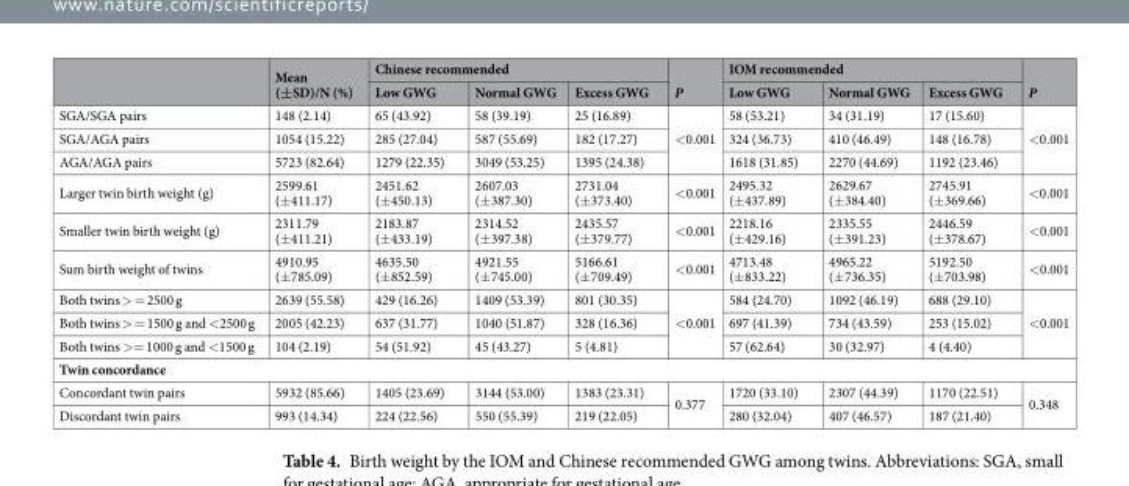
<table><thead><tr><td rowspan="2"></td><td rowspan="2">Mean (±SD)/N (%)</td><td colspan="3">Chinese recommended</td><td rowspan="2">P</td><td colspan="3">IOM recommended</td><td rowspan="2">P</td></tr><tr><td>Low GWG</td><td>Normal GWG</td><td>Excess GWG</td><td>Low GWG</td><td>Normal GWG</td><td>Excess GWG</td></tr></thead><tbody><tr><td>SGA/SGA pairs</td><td>148 (2.14)</td><td>65 (43.92)</td><td>58 (39.19)</td><td>25 (16.89)</td><td rowspan="3">&lt;0.001</td><td>58 (53.21)</td><td>34 (31.19)</td><td>17 (15.60)</td><td rowspan="3">&lt;0.001</td></tr><tr><td>SGA/AGA pairs</td><td>1054 (15.22)</td><td>285 (27.04)</td><td>587 (55.69)</td><td>182 (17.27)</td><td>324 (36.73)</td><td>410 (46.49)</td><td>148 (16.78)</td></tr><tr><td>AGA/AGA pairs</td><td>5723 (82.64)</td><td>1279 (22.35)</td><td>3049 (53.25)</td><td>1395 (24.38)</td><td>1618 (31.85)</td><td>2270 (44.69)</td><td>1192 (23.46)</td></tr><tr><td>Larger twin birth weight (g)</td><td>2599.61 (±411.17)</td><td>2451.62 (±450.13)</td><td>2607.03 (±387.30)</td><td>2731.04 (±373.40)</td><td>&lt;0.001</td><td>2495.32 (±437.89)</td><td>2629.67 (±384.40)</td><td>2745.91 (±369.66)</td><td>&lt;0.001</td></tr><tr><td>Smaller twin birth weight (g)</td><td>2311.79 (±411.21)</td><td>2183.87 (±433.19)</td><td>2314.52 (±397.38)</td><td>2435.57 (±379.77)</td><td>&lt;0.001</td><td>2218.16 (±429.16)</td><td>2335.55 (±391.23)</td><td>2446.59 (±378.67)</td><td>&lt;0.001</td></tr><tr><td>Sum birth weight of twins</td><td>4910.95 (±785.09)</td><td>4635.50 (±852.59)</td><td>4921.55 (±745.00)</td><td>5166.61 (±709.49)</td><td>&lt;0.001</td><td>4713.48 (±833.22)</td><td>4965.22 (±736.35)</td><td>5192.50 (±703.98)</td><td>&lt;0.001</td></tr><tr><td>Both twins &gt; = 2500 g</td><td>2639 (55.58)</td><td>429 (16.26)</td><td>1409 (53.39)</td><td>801 (30.35)</td><td rowspan="3">&lt;0.001</td><td>584 (24.70)</td><td>1092 (46.19)</td><td>688 (29.10)</td><td rowspan="3">&lt;0.001</td></tr><tr><td>Both twins &gt; = 1500 g and &lt;2500 g</td><td>2005 (42.23)</td><td>637 (31.77)</td><td>1040 (51.87)</td><td>328 (16.36)</td><td>697 (41.39)</td><td>734 (43.59)</td><td>253 (15.02)</td></tr><tr><td>Both twins &gt;= 1000 g and &lt;1500 g</td><td>104 (2.19)</td><td>54 (51.92)</td><td>45 (43.27)</td><td>5 (4.81)</td><td>57 (62.64)</td><td>30 (32.97)</td><td>4 (4.40)</td></tr><tr><td colspan="10">Twin concordance</td></tr><tr><td>Concordant twin pairs</td><td>5932 (85.66)</td><td>1405 (23.69)</td><td>3144 (53.00)</td><td>1383 (23.31)</td><td rowspan="2">0.377</td><td>1720 (33.10)</td><td>2307 (44.39)</td><td>1170 (22.51)</td><td rowspan="2">0.348</td></tr><tr><td>Discordant twin pairs</td><td>993 (14.34)</td><td>224 (22.56)</td><td>550 (55.39)</td><td>219 (22.05)</td><td>280 (32.04)</td><td>407 (46.57)</td><td>187 (21.40)</td></tr></tbody></table>